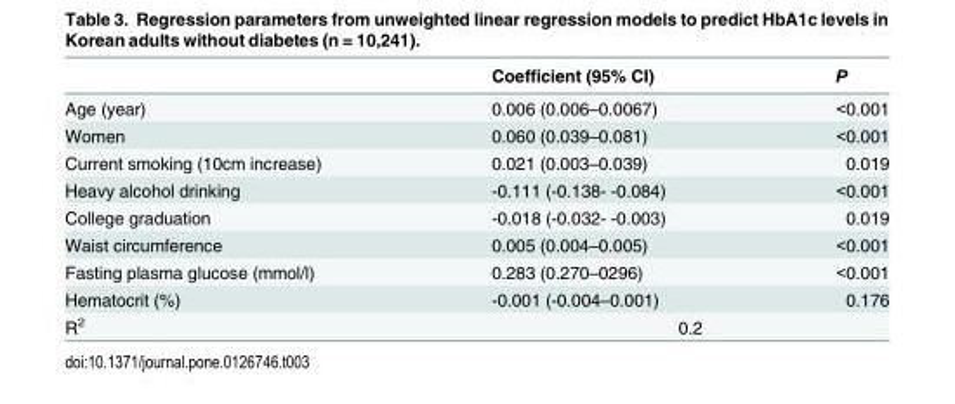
<table><thead><tr><td></td><td>Coefficient (95% CI)</td><td>P</td></tr></thead><tbody><tr><td>Age (year)</td><td>0.006 (0.006–0.0067)</td><td>&lt;0.001</td></tr><tr><td>Women</td><td>0.060 (0.039–0.081)</td><td>&lt;0.001</td></tr><tr><td>Current smoking (10cm increase)</td><td>0.021 (0.003–0.039)</td><td>0.019</td></tr><tr><td>Heavy alcohol drinking</td><td>-0.111 (-0.138- -0.084)</td><td>&lt;0.001</td></tr><tr><td>College graduation</td><td>-0.018 (-0.032- -0.003)</td><td>0.019</td></tr><tr><td>Waist circumference</td><td>0.005 (0.004–0.005)</td><td>&lt;0.001</td></tr><tr><td>Fasting plasma glucose (mmol/l)</td><td>0.283 (0.270–0296)</td><td>&lt;0.001</td></tr><tr><td>Hematocrit (%)</td><td>-0.001 (-0.004–0.001)</td><td>0.176</td></tr><tr><td>R<sup>2</sup></td><td colspan="2">0.2</td></tr></tbody></table>